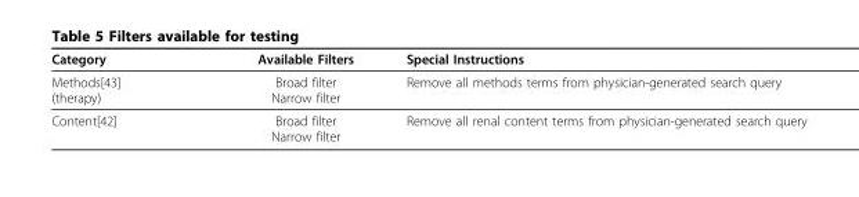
<table><thead><tr><td>Category</td><td>Available Filters</td><td>Special Instructions</td></tr></thead><tbody><tr><td>Methods[43] (therapy)</td><td>Broad filter Narrow filter</td><td>Remove all methods terms from physician-generated search query</td></tr><tr><td>Content[42]</td><td>Broad filter Narrow filter</td><td>Remove all renal content terms from physician-generated search query</td></tr></tbody></table>